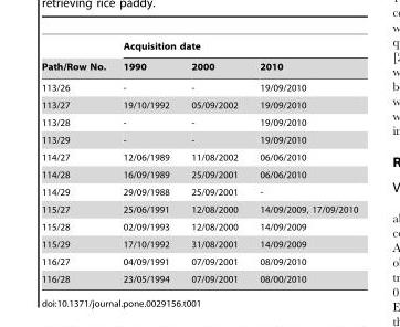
<table><thead><tr><td rowspan="2">Path/Row No.</td><td colspan="3">Acquisition date</td></tr><tr><td>1990</td><td>2000</td><td>2010</td></tr></thead><tbody><tr><td>113/26</td><td>-</td><td>-</td><td>19/09/2010</td></tr><tr><td>113/27</td><td>19/10/1992</td><td>05/09/2002</td><td>19/09/2010</td></tr><tr><td>113/28</td><td>-</td><td>-</td><td>19/09/2010</td></tr><tr><td>113/29</td><td>-</td><td>-</td><td>19/09/2010</td></tr><tr><td>114/27</td><td>12/06/1989</td><td>11/08/2002</td><td>06/06/2010</td></tr><tr><td>114/28</td><td>16/09/1989</td><td>25/09/2001</td><td>06/06/2010</td></tr><tr><td>114/29</td><td>29/09/1988</td><td>25/09/2001</td><td>-</td></tr><tr><td>115/27</td><td>25/06/1991</td><td>12/08/2000</td><td>14/09/2009, 17/09/2010</td></tr><tr><td>115/28</td><td>02/09/1993</td><td>12/08/2000</td><td>14/09/2009</td></tr><tr><td>115/29</td><td>17/10/1992</td><td>31/08/2001</td><td>14/09/2009</td></tr><tr><td>116/27</td><td>04/09/1991</td><td>07/09/2001</td><td>08/09/2010</td></tr><tr><td>116/28</td><td>23/05/1994</td><td>07/09/2001</td><td>08/00/2010</td></tr></tbody></table>